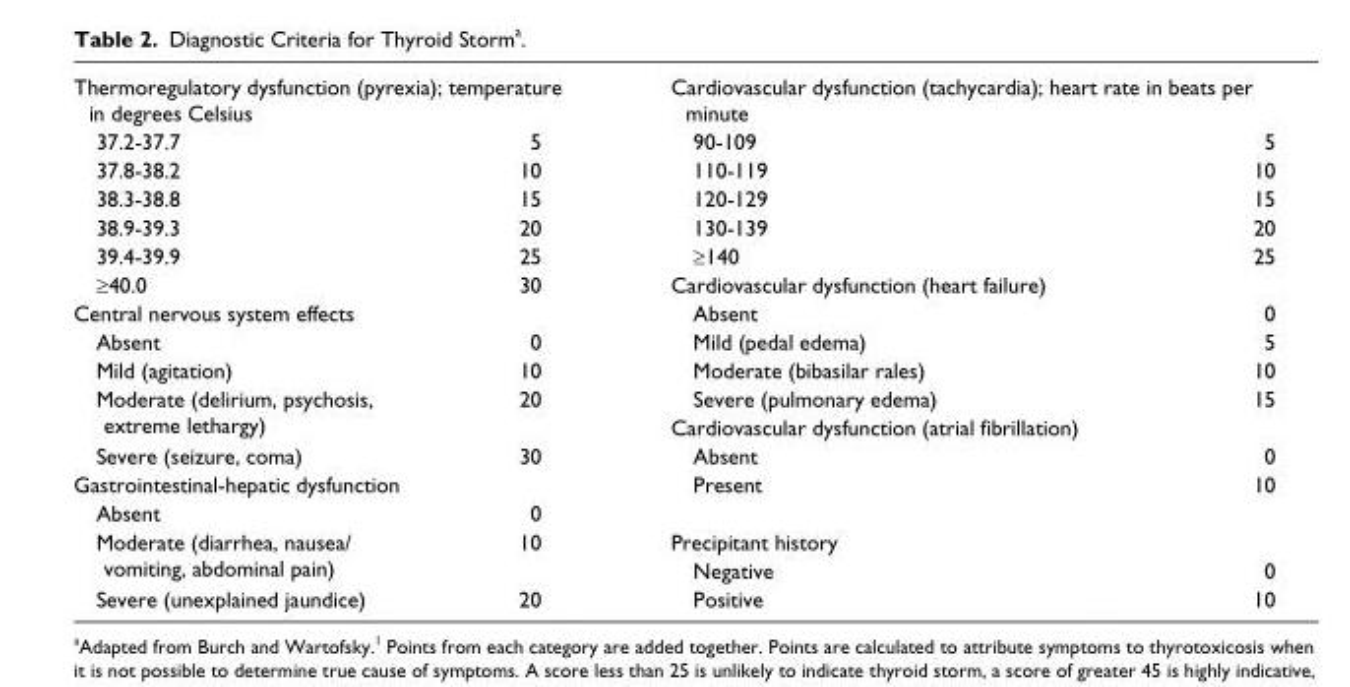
<table><tbody><tr><td colspan="2">Thermoregulatory dysfunction (pyrexia); temperature in degrees Celsius</td><td colspan="2">Cardiovascular dysfunction (tachycardia); heart rate in beats per minute</td></tr><tr><td>37.2-37.7</td><td>5</td><td>90-109</td><td>5</td></tr><tr><td>37.8-38.2</td><td>10</td><td>110-119</td><td>10</td></tr><tr><td>38.3-38.8</td><td>15</td><td>120-129</td><td>15</td></tr><tr><td>38.9-39.3</td><td>20</td><td>130-139</td><td>20</td></tr><tr><td>39.4-39.9</td><td>25</td><td>≥140</td><td>25</td></tr><tr><td>≥40.0</td><td>30</td><td colspan="2">Cardiovascular dysfunction (heart failure)</td></tr><tr><td colspan="2">Central nervous system effects</td><td>Absent</td><td>0</td></tr><tr><td>Absent</td><td>0</td><td>Mild (pedal edema)</td><td>5</td></tr><tr><td>Mild (agitation)</td><td>10</td><td>Moderate (bibasilar rales)</td><td>10</td></tr><tr><td rowspan="2">Moderate (delirium, psychosis, extreme lethargy)</td><td rowspan="2">20</td><td>Severe (pulmonary edema)</td><td rowspan="2">15</td></tr><tr><td>Cardiovascular dysfunction (atrial fibrillation)</td></tr><tr><td>Severe (seizure, coma)</td><td>30</td><td>Absent</td><td>0</td></tr><tr><td colspan="2">Gastrointestinal-hepatic dysfunction</td><td>Present</td><td>10</td></tr><tr><td>Absent</td><td>0</td><td></td><td></td></tr><tr><td rowspan="2">Moderate (diarrhea, nausea/ vomiting, abdominal pain)</td><td rowspan="2">10</td><td>Precipitant history</td><td></td></tr><tr><td>Negative</td><td>0</td></tr><tr><td>Severe (unexplained jaundice)</td><td>20</td><td>Positive</td><td>10</td></tr></tbody></table>